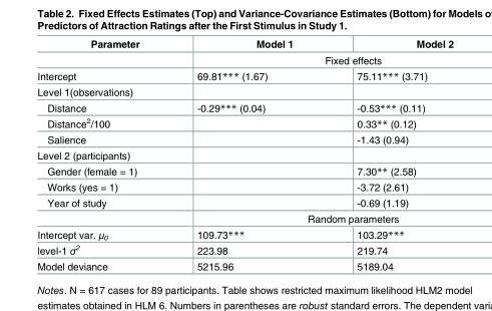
<table><thead><tr><td>Parameter</td><td>Model 1</td><td>Model 2</td></tr></thead><tbody><tr><td></td><td colspan="2">Fixed effects</td></tr><tr><td>Intercept</td><td>69.81*** (1.67)</td><td>75.11*** (3.71)</td></tr><tr><td colspan="3">Level 1(observations)</td></tr><tr><td>Distance</td><td>-0.29*** (0.04)</td><td>-0.53*** (0.11)</td></tr><tr><td>Distance<sup>2</sup>/100</td><td></td><td>0.33** (0.12)</td></tr><tr><td>Salience</td><td></td><td>-1.43 (0.94)</td></tr><tr><td colspan="3">Level 2 (participants)</td></tr><tr><td>Gender (female = 1)</td><td></td><td>7.30** (2.58)</td></tr><tr><td>Works (yes = 1)</td><td></td><td>-3.72 (2.61)</td></tr><tr><td rowspan="2">Year of study</td><td></td><td>-0.69 (1.19)</td></tr><tr><td colspan="2">Random parameters</td></tr><tr><td>Intercept var. μ<sub>0</sub></td><td>109.73***</td><td>103.29***</td></tr><tr><td>level-1 σ<sup>2</sup></td><td>223.98</td><td>219.74</td></tr><tr><td>Model deviance</td><td>5215.96</td><td>5189.04</td></tr></tbody></table>